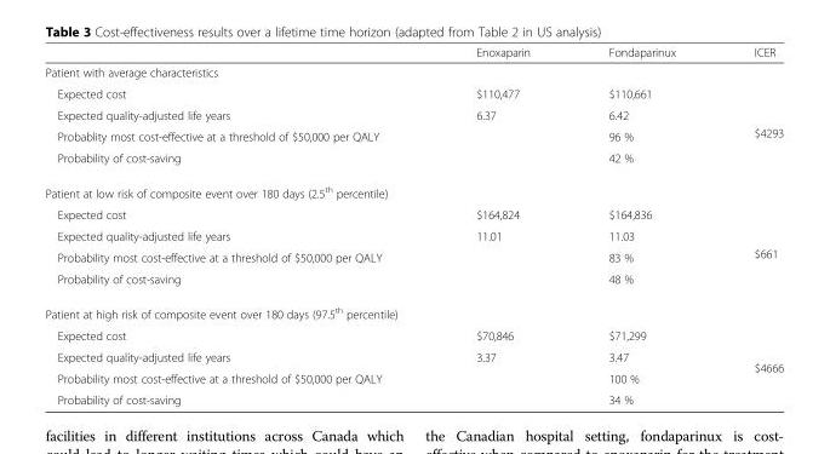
<table><thead><tr><td></td><td>Enoxaparin</td><td>Fondaparinux</td><td>ICER</td></tr></thead><tbody><tr><td colspan="4">Patient with average characteristics</td></tr><tr><td>Expected cost</td><td>$110,477</td><td>$110,661</td><td rowspan="4">$4293</td></tr><tr><td>Expected quality-adjusted life years</td><td>6.37</td><td>6.42</td></tr><tr><td>Probablity most cost-effective at a threshold of $50,000 per QALY</td><td></td><td>96 %</td></tr><tr><td>Probability of cost-saving</td><td></td><td>42 %</td></tr><tr><td colspan="4">Patient at low risk of composite event over 180 days (2.5<sup>th</sup> percentile)</td></tr><tr><td>Expected cost</td><td>$164,824</td><td>$164,836</td><td rowspan="4">$661</td></tr><tr><td>Expected quality-adjusted life years</td><td>11.01</td><td>11.03</td></tr><tr><td>Probability most cost-effective at a threshold of $50,000 per QALY</td><td></td><td>83 %</td></tr><tr><td>Probability of cost-saving</td><td></td><td>48 %</td></tr><tr><td colspan="4">Patient at high risk of composite event over 180 days (97.5<sup>th</sup> percentile)</td></tr><tr><td>Expected cost</td><td>$70,846</td><td>$71,299</td><td rowspan="4">$4666</td></tr><tr><td>Expected quality-adjusted life years</td><td>3.37</td><td>3.47</td></tr><tr><td>Probability most cost-effective at a threshold of $50,000 per QALY</td><td></td><td>100 %</td></tr><tr><td>Probability of cost-saving</td><td></td><td>34 %</td></tr></tbody></table>